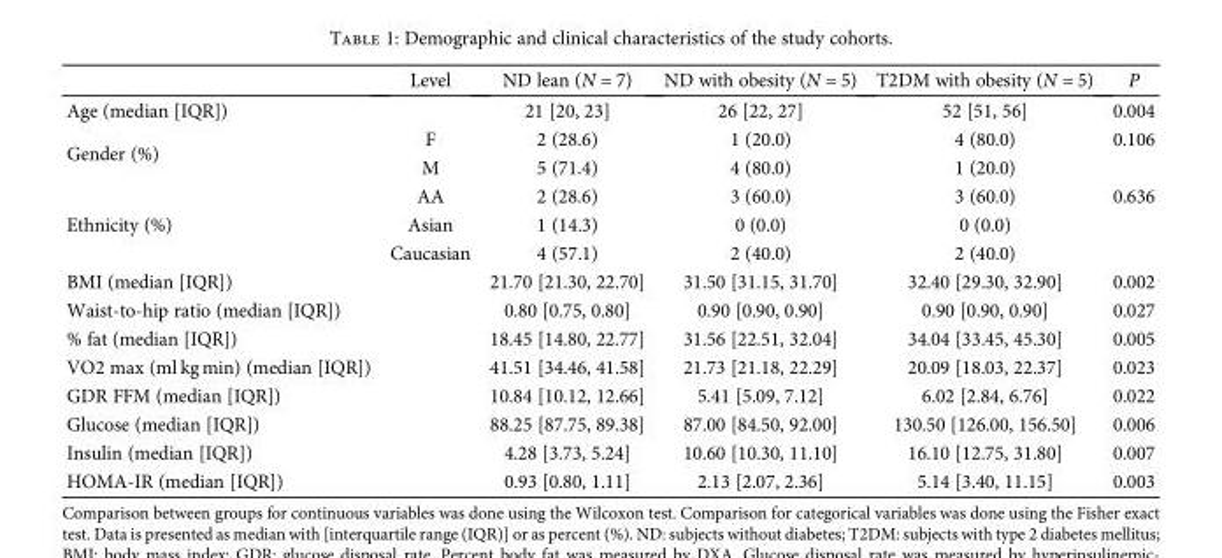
<table><thead><tr><td></td><td>Level</td><td>ND lean (N = 7)</td><td>ND with obesity (N = 5)</td><td>T2DM with obesity (N = 5)</td><td>P</td></tr></thead><tbody><tr><td>Age (median [IQR])</td><td></td><td>21 [20, 23]</td><td>26 [22, 27]</td><td>52 [51, 56]</td><td>0.004</td></tr><tr><td rowspan="2">Gender (%)</td><td>F</td><td>2 (28.6)</td><td>1 (20.0)</td><td>4 (80.0)</td><td>0.106</td></tr><tr><td>M</td><td>5 (71.4)</td><td>4 (80.0)</td><td>1 (20.0)</td><td></td></tr><tr><td rowspan="3">Ethnicity (%)</td><td>AA</td><td>2 (28.6)</td><td>3 (60.0)</td><td>3 (60.0)</td><td>0.636</td></tr><tr><td>Asian</td><td>1 (14.3)</td><td>0 (0.0)</td><td>0 (0.0)</td><td></td></tr><tr><td>Caucasian</td><td>4 (57.1)</td><td>2 (40.0)</td><td>2 (40.0)</td><td></td></tr><tr><td>BMI (median [IQR])</td><td></td><td>21.70 [21.30, 22.70]</td><td>31.50 [31.15, 31.70]</td><td>32.40 [29.30, 32.90]</td><td>0.002</td></tr><tr><td>Waist-to-hip ratio (median [IQR])</td><td></td><td>0.80 [0.75, 0.80]</td><td>0.90 [0.90, 0.90]</td><td>0.90 [0.90, 0.90]</td><td>0.027</td></tr><tr><td>% fat (median [IQR])</td><td></td><td>18.45 [14.80, 22.77]</td><td>31.56 [22.51, 32.04]</td><td>34.04 [33.45, 45.30]</td><td>0.005</td></tr><tr><td>VO2 max (ml kg min) (median [IQR])</td><td></td><td>41.51 [34.46, 41.58]</td><td>21.73 [21.18, 22.29]</td><td>20.09 [18.03, 22.37]</td><td>0.023</td></tr><tr><td>GDR FFM (median [IQR])</td><td></td><td>10.84 [10.12, 12.66]</td><td>5.41 [5.09, 7.12]</td><td>6.02 [2.84, 6.76]</td><td>0.022</td></tr><tr><td>Glucose (median [IQR])</td><td></td><td>88.25 [87.75, 89.38]</td><td>87.00 [84.50, 92.00]</td><td>130.50 [126.00, 156.50]</td><td>0.006</td></tr><tr><td>Insulin (median [IQR])</td><td></td><td>4.28 [3.73, 5.24]</td><td>10.60 [10.30, 11.10]</td><td>16.10 [12.75, 31.80]</td><td>0.007</td></tr><tr><td>HOMA-IR (median [IQR])</td><td></td><td>0.93 [0.80, 1.11]</td><td>2.13 [2.07, 2.36]</td><td>5.14 [3.40, 11.15]</td><td>0.003</td></tr></tbody></table>